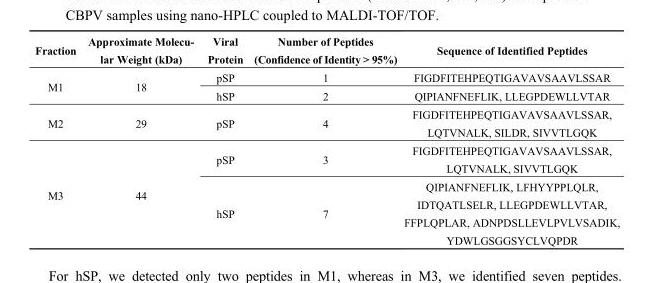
<table><thead><tr><td>Fraction</td><td>Approximate Molecu- lar Weight (kDa)</td><td>Viral Protein</td><td>Number of Peptides (Confidence of Identity &gt; 95%)</td><td>Sequence of Identified Peptides</td></tr></thead><tbody><tr><td rowspan="2">M1</td><td rowspan="2">18</td><td>pSP</td><td>1</td><td>FIGDFITEHPEQTIGAVAVSAAVLSSAR</td></tr><tr><td>hSP</td><td>2</td><td>QIPIANFNEFLIK, LLEGPDEWLLVTAR</td></tr><tr><td>M2</td><td>29</td><td>pSP</td><td>4</td><td>FIGDFITEHPEQTIGAVAVSAAVLSSAR, LQTVNALK, SILDR, SIVVTLGQK</td></tr><tr><td rowspan="2">M3</td><td rowspan="2">44</td><td>pSP</td><td>3</td><td>FIGDFITEHPEQTIGAVAVSAAVLSSAR, LQTVNALK, SIVVTLGQK</td></tr><tr><td>hSP</td><td>7</td><td>QIPIANFNEFLIK, LFHYYPPLQLR, IDTQATLSELR, LLEGPDEWLLVTAR, FFPLQPLAR, ADNPDSLLEVLPVLVSADIK, YDWLGSGGSYCLVQPDR</td></tr></tbody></table>